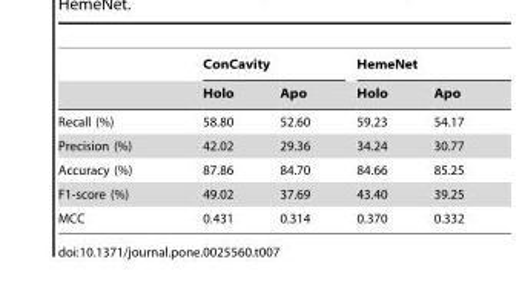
<table><thead><tr><td rowspan="2"></td><td colspan="2">ConCavity</td><td colspan="2">HemeNet</td></tr><tr><td>Holo</td><td>Apo</td><td>Holo</td><td>Apo</td></tr></thead><tbody><tr><td>Recall (%)</td><td>58.80</td><td>52.60</td><td>59.23</td><td>54.17</td></tr><tr><td>Precision (%)</td><td>42.02</td><td>29.36</td><td>34.24</td><td>30.77</td></tr><tr><td>Accuracy (%)</td><td>87.86</td><td>84.70</td><td>84.66</td><td>85.25</td></tr><tr><td>F1-score (%)</td><td>49.02</td><td>37.69</td><td>43.40</td><td>39.25</td></tr><tr><td>MCC</td><td>0.431</td><td>0.314</td><td>0.370</td><td>0.332</td></tr></tbody></table>